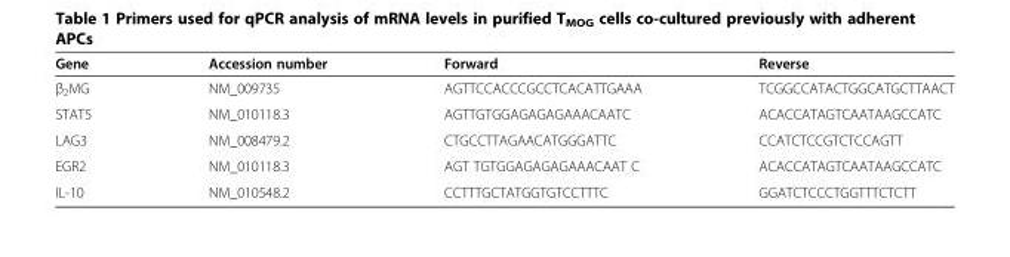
<table><thead><tr><td>Gene</td><td>Accession number</td><td>Forward</td><td>Reverse</td></tr></thead><tbody><tr><td>β<sub>2</sub>MG</td><td>NM_009735</td><td>AGTTCCACCCGCCTCACATTGAAA</td><td>TCGGCCATACTGGCATGCTTAACT</td></tr><tr><td>STAT5</td><td>NM_010118.3</td><td>AGTTGTGGAGAGAGAAACAATC</td><td>ACACCATAGTCAATAAGCCATC</td></tr><tr><td>LAG3</td><td>NM_008479.2</td><td>CTGCCTTAGAACATGGGATTC</td><td>CCATCTCCGTCTCCAGTT</td></tr><tr><td>EGR2</td><td>NM_010118.3</td><td>AGT TGTGGAGAGAGAAACAAT C</td><td>ACACCATAGTCAATAAGCCATC</td></tr><tr><td>IL-10</td><td>NM_010548.2</td><td>CCTTTGCTATGGTGTCCTTTC</td><td>GGATCTCCCTGGTTTCTCTT</td></tr></tbody></table>